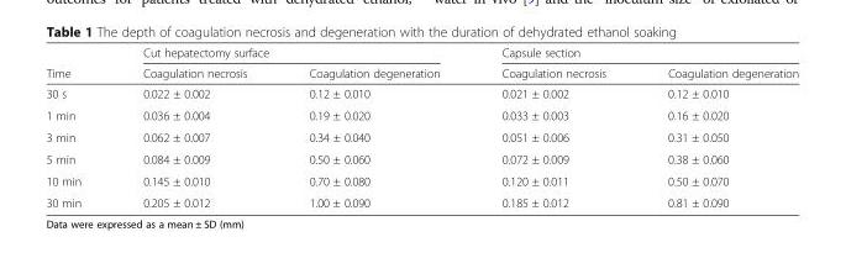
<table><thead><tr><td rowspan="2">Time</td><td colspan="2">Cut hepatectomy surface</td><td colspan="2">Capsule section</td></tr><tr><td>Coagulation necrosis</td><td>Coagulation degeneration</td><td>Coagulation necrosis</td><td>Coagulation degeneration</td></tr></thead><tbody><tr><td>30 s</td><td>0.022 ± 0.002</td><td>0.12 ± 0.010</td><td>0.021 ± 0.002</td><td>0.12 ± 0.010</td></tr><tr><td>1 min</td><td>0.036 ± 0.004</td><td>0.19 ± 0.020</td><td>0.033 ± 0.003</td><td>0.16 ± 0.020</td></tr><tr><td>3 min</td><td>0.062 ± 0.007</td><td>0.34 ± 0.040</td><td>0.051 ± 0.006</td><td>0.31 ± 0.050</td></tr><tr><td>5 min</td><td>0.084 ± 0.009</td><td>0.50 ± 0.060</td><td>0.072 ± 0.009</td><td>0.38 ± 0.060</td></tr><tr><td>10 min</td><td>0.145 ± 0.010</td><td>0.70 ± 0.080</td><td>0.120 ± 0.011</td><td>0.50 ± 0.070</td></tr><tr><td>30 min</td><td>0.205 ± 0.012</td><td>1.00 ± 0.090</td><td>0.185 ± 0.012</td><td>0.81 ± 0.090</td></tr></tbody></table>